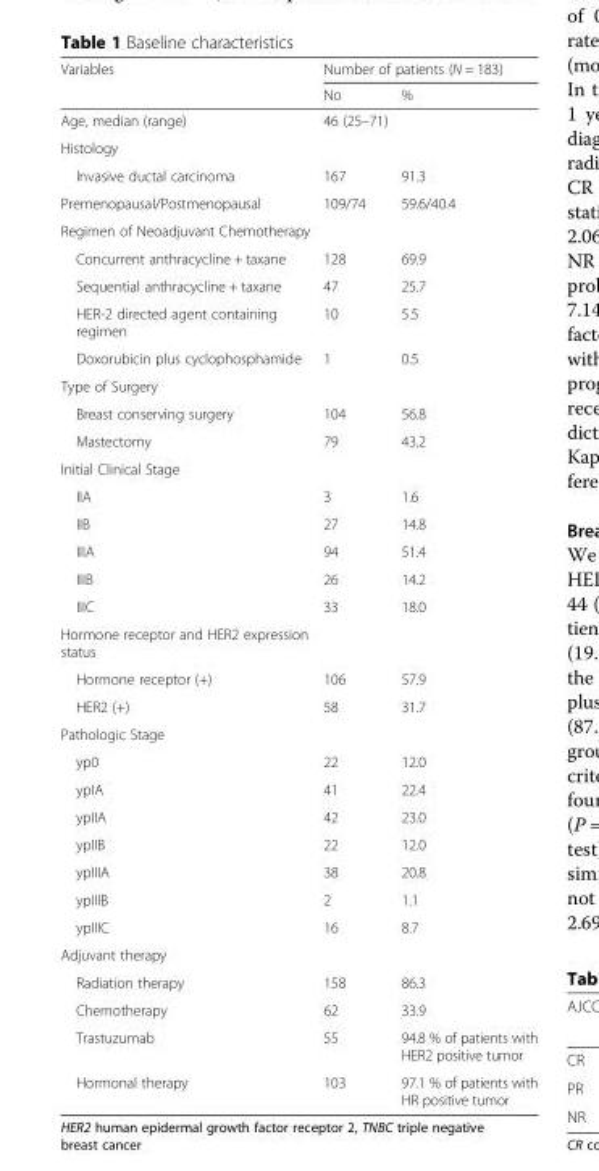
<table><thead><tr><td rowspan="2">Variables</td><td colspan="2">Number of patients (N = 183)</td></tr><tr><td>No</td><td>%</td></tr></thead><tbody><tr><td>Age, median (range)</td><td>46 (25–71)</td><td></td></tr><tr><td colspan="3">Histology</td></tr><tr><td>Invasive ductal carcinoma</td><td>167</td><td>91.3</td></tr><tr><td>Premenopausal/Postmenopausal</td><td>109/74</td><td>59.6/40.4</td></tr><tr><td colspan="3">Regimen of Neoadjuvant Chemotherapy</td></tr><tr><td>Concurrent anthracycline + taxane</td><td>128</td><td>69.9</td></tr><tr><td>Sequential anthracycline + taxane</td><td>47</td><td>25.7</td></tr><tr><td>HER-2 directed agent containing regimen</td><td>10</td><td>5.5</td></tr><tr><td>Doxorubicin plus cyclophosphamide</td><td>1</td><td>0.5</td></tr><tr><td colspan="3">Type of Surgery</td></tr><tr><td>Breast conserving surgery</td><td>104</td><td>56.8</td></tr><tr><td>Mastectomy</td><td>79</td><td>43.2</td></tr><tr><td colspan="3">Initial Clinical Stage</td></tr><tr><td>IIA</td><td>3</td><td>1.6</td></tr><tr><td>IIB</td><td>27</td><td>14.8</td></tr><tr><td>IIIA</td><td>94</td><td>51.4</td></tr><tr><td>IIIB</td><td>26</td><td>14.2</td></tr><tr><td>IIIC</td><td>33</td><td>18.0</td></tr><tr><td colspan="3">Hormone receptor and HER2 expression status</td></tr><tr><td>Hormone receptor (+)</td><td>106</td><td>57.9</td></tr><tr><td>HER2 (+)</td><td>58</td><td>31.7</td></tr><tr><td colspan="3">Pathologic Stage</td></tr><tr><td>yp0</td><td>22</td><td>12.0</td></tr><tr><td>ypIA</td><td>41</td><td>22.4</td></tr><tr><td>ypIIA</td><td>42</td><td>23.0</td></tr><tr><td>ypIIB</td><td>22</td><td>12.0</td></tr><tr><td>ypIIIA</td><td>38</td><td>20.8</td></tr><tr><td>ypIIIB</td><td>2</td><td>1.1</td></tr><tr><td>ypIIIC</td><td>16</td><td>8.7</td></tr><tr><td colspan="3">Adjuvant therapy</td></tr><tr><td>Radiation therapy</td><td>158</td><td>86.3</td></tr><tr><td>Chemotherapy</td><td>62</td><td>33.9</td></tr><tr><td>Trastuzumab</td><td>55</td><td>94.8 % of patients with HER2 positive tumor</td></tr><tr><td>Hormonal therapy</td><td>103</td><td>97.1 % of patients with HR positive tumor</td></tr></tbody></table>